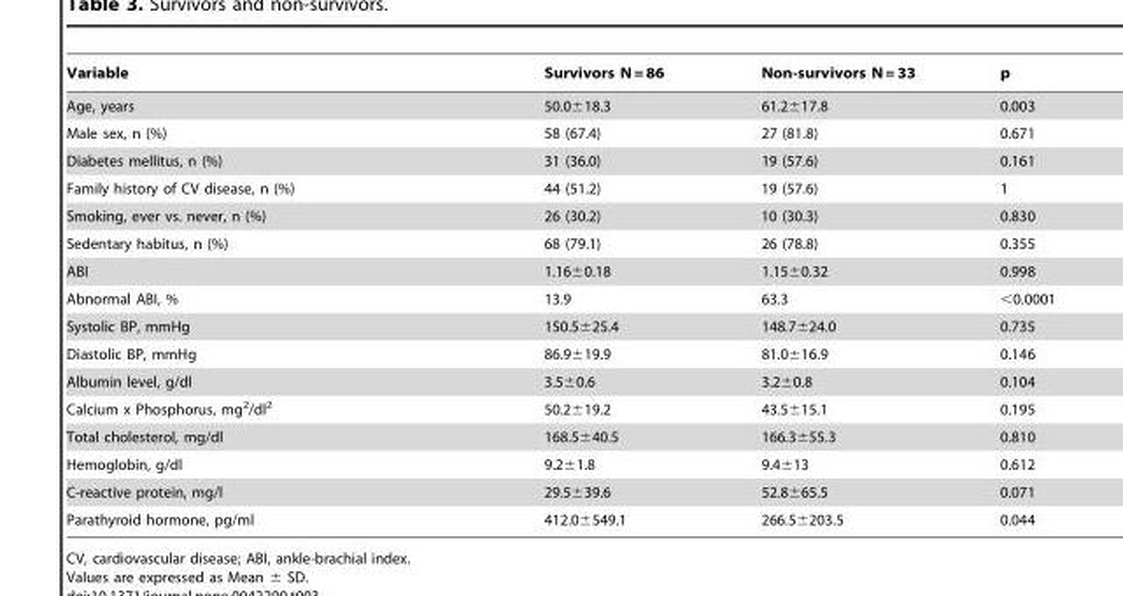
<table><thead><tr><td>Variable</td><td>Survivors N = 86</td><td>Non-survivors N = 33</td><td>p</td></tr></thead><tbody><tr><td>Age, years</td><td>50.0±18.3</td><td>61.2±17.8</td><td>0.003</td></tr><tr><td>Male sex, n (%)</td><td>58 (67.4)</td><td>27 (81.8)</td><td>0.671</td></tr><tr><td>Diabetes mellitus, n (%)</td><td>31 (36.0)</td><td>19 (57.6)</td><td>0.161</td></tr><tr><td>Family history of CV disease, n (%)</td><td>44 (51.2)</td><td>19 (57.6)</td><td>1</td></tr><tr><td>Smoking, ever vs. never, n (%)</td><td>26 (30.2)</td><td>10 (30.3)</td><td>0.830</td></tr><tr><td>Sedentary habitus, n (%)</td><td>68 (79.1)</td><td>26 (78.8)</td><td>0.355</td></tr><tr><td>ABI</td><td>1.16±0.18</td><td>1.15±0.32</td><td>0.998</td></tr><tr><td>Abnormal ABI, %</td><td>13.9</td><td>63.3</td><td>&lt;0.0001</td></tr><tr><td>Systolic BP, mmHg</td><td>150.5±25.4</td><td>148.7±24.0</td><td>0.735</td></tr><tr><td>Diastolic BP, mmHg</td><td>86.9±19.9</td><td>81.0±16.9</td><td>0.146</td></tr><tr><td>Albumin level, g/dl</td><td>3.5±0.6</td><td>3.2±0.8</td><td>0.104</td></tr><tr><td>Calcium x Phosphorus, mg<sup>2</sup>/dl<sup>2</sup></td><td>50.2±19.2</td><td>43.5±15.1</td><td>0.195</td></tr><tr><td>Total cholesterol, mg/dl</td><td>168.5±40.5</td><td>166.3±55.3</td><td>0.810</td></tr><tr><td>Hemoglobin, g/dl</td><td>9.2±1.8</td><td>9.4±13</td><td>0.612</td></tr><tr><td>C-reactive protein, mg/l</td><td>29.5±39.6</td><td>52.8±65.5</td><td>0.071</td></tr><tr><td>Parathyroid hormone, pg/ml</td><td>412.0±549.1</td><td>266.5±203.5</td><td>0.044</td></tr></tbody></table>